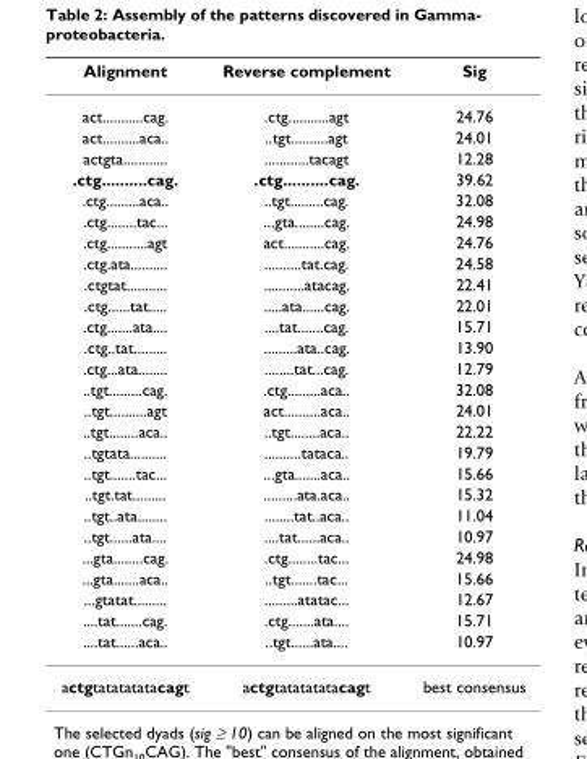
<table><thead><tr><td>Alignment</td><td>Reverse complement</td><td>Sig</td></tr></thead><tbody><tr><td>act...........cag.</td><td>.ctg...........agt</td><td>24.76</td></tr><tr><td>act..........aca..</td><td>..tgt..........agt</td><td>24.01</td></tr><tr><td>actgta............</td><td>............tacagt</td><td>12.28</td></tr><tr><td>.ctg..........cag.</td><td>.ctg..........cag.</td><td>39.62</td></tr><tr><td>.ctg.........aca..</td><td>..tgt.........cag.</td><td>32.08</td></tr><tr><td>.ctg........tac...</td><td>...gta........cag.</td><td>24.98</td></tr><tr><td>.ctg...........agt</td><td>act...........cag.</td><td>24.76</td></tr><tr><td>.ctg.ata..........</td><td>..........tat.cag.</td><td>24.58</td></tr><tr><td>.ctgtat...........</td><td>...........atacag.</td><td>22.41</td></tr><tr><td>.ctg......tat.....</td><td>.....ata......cag.</td><td>22.01</td></tr><tr><td>.ctg.......ata....</td><td>....tat.......cag.</td><td>15.71</td></tr><tr><td>.ctg..tat.........</td><td>.........ata..cag.</td><td>13.90</td></tr><tr><td>.ctg...ata........</td><td>........tat...cag.</td><td>12.79</td></tr><tr><td>..tgt.........cag.</td><td>.ctg.........aca..</td><td>32.08</td></tr><tr><td>..tgt..........agt</td><td>act..........aca..</td><td>24.01</td></tr><tr><td>..tgt........aca..</td><td>..tgt........aca..</td><td>22.22</td></tr><tr><td>..tgtata..........</td><td>..........tataca..</td><td>19.79</td></tr><tr><td>..tgt.......tac...</td><td>...gta.......aca..</td><td>15.66</td></tr><tr><td>..tgt.tat.........</td><td>.........ata.aca..</td><td>15.32</td></tr><tr><td>..tgt..ata........</td><td>........tat..aca..</td><td>11.04</td></tr><tr><td>..tgt......ata....</td><td>....tat......aca..</td><td>10.97</td></tr><tr><td>...gta........cag.</td><td>.ctg........tac...</td><td>24.98</td></tr><tr><td>...gta.......aca..</td><td>..tgt.......tac...</td><td>15.66</td></tr><tr><td>...gtatat.........</td><td>.........atatac...</td><td>12.67</td></tr><tr><td>....tat.......cag.</td><td>.ctg.......ata....</td><td>15.71</td></tr><tr><td>....tat......aca..</td><td>..tgt......ata....</td><td>10.97</td></tr><tr><td>actgtatatatatacagt</td><td>actgtatatatatacagt</td><td>best consensus</td></tr></tbody></table>